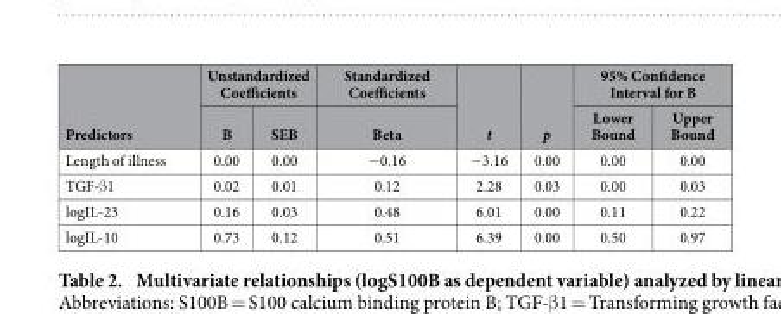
<table><thead><tr><td rowspan="2">Predictors</td><td colspan="2">Unstandardized Coefficients</td><td rowspan="2">Standardized Coefficients Beta</td><td rowspan="2">t</td><td rowspan="2">p</td><td colspan="2">95% Confidence Interval for B</td></tr><tr><td>B</td><td>SEB</td><td>Lower Bound</td><td>Upper Bound</td></tr></thead><tbody><tr><td>Length of illness</td><td>0.00</td><td>0.00</td><td>− 0.16</td><td>− 3.16</td><td>0.00</td><td>0.00</td><td>0.00</td></tr><tr><td>TGF-β 1</td><td>0.02</td><td>0.01</td><td>0.12</td><td>2.28</td><td>0.03</td><td>0.00</td><td>0.03</td></tr><tr><td>logIL-23</td><td>0.16</td><td>0.03</td><td>0.48</td><td>6.01</td><td>0.00</td><td>0.11</td><td>0.22</td></tr><tr><td>logIL-10</td><td>0.73</td><td>0.12</td><td>0.51</td><td>6.39</td><td>0.00</td><td>0.50</td><td>0.97</td></tr></tbody></table>